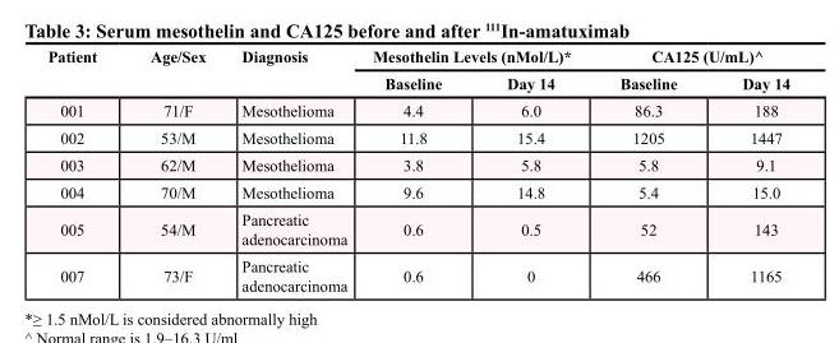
<table><thead><tr><td rowspan="2">Patient</td><td rowspan="2">Age/Sex</td><td rowspan="2">Diagnosis</td><td colspan="2">Mesothelin Levels (nMol/L)*</td><td colspan="2">CA125 (U/mL)<sup>^</sup></td></tr><tr><td>Baseline</td><td>Day 14</td><td>Baseline</td><td>Day 14</td></tr></thead><tbody><tr><td>001</td><td>71/F</td><td>Mesothelioma</td><td>4.4</td><td>6.0</td><td>86.3</td><td>188</td></tr><tr><td>002</td><td>53/M</td><td>Mesothelioma</td><td>11.8</td><td>15.4</td><td>1205</td><td>1447</td></tr><tr><td>003</td><td>62/M</td><td>Mesothelioma</td><td>3.8</td><td>5.8</td><td>5.8</td><td>9.1</td></tr><tr><td>004</td><td>70/M</td><td>Mesothelioma</td><td>9.6</td><td>14.8</td><td>5.4</td><td>15.0</td></tr><tr><td>005</td><td>54/M</td><td>Pancreatic adenocarcinoma</td><td>0.6</td><td>0.5</td><td>52</td><td>143</td></tr><tr><td>007</td><td>73/F</td><td>Pancreatic adenocarcinoma</td><td>0.6</td><td>0</td><td>466</td><td>1165</td></tr></tbody></table>